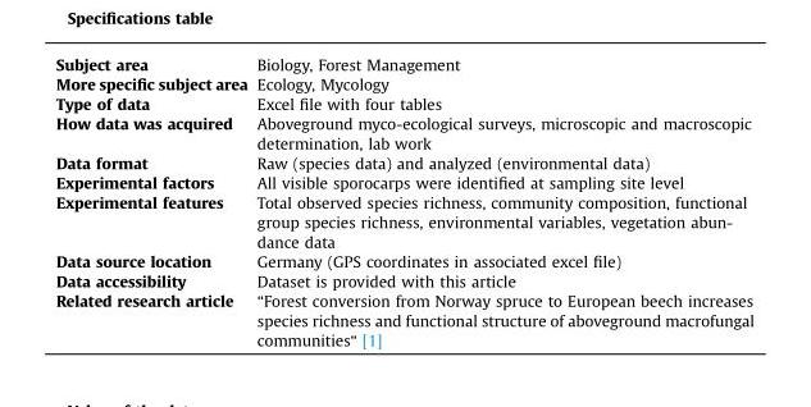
<table><tbody><tr><td>Subject area</td><td>Biology, Forest Management</td></tr><tr><td>More specific subject area</td><td>Ecology, Mycology</td></tr><tr><td>Type of data</td><td>Excel file with four tables</td></tr><tr><td>How data was acquired</td><td>Aboveground myco-ecological surveys, microscopic and macroscopic determination, lab work</td></tr><tr><td>Data format</td><td>Raw (species data) and analyzed (environmental data)</td></tr><tr><td>Experimental factors</td><td>All visible sporocarps were identified at sampling site level</td></tr><tr><td>Experimental features</td><td>Total observed species richness, community composition, functional group species richness, environmental variables, vegetation abun- dance data</td></tr><tr><td>Data source location</td><td>Germany (GPS coordinates in associated excel file)</td></tr><tr><td>Data accessibility</td><td>Dataset is provided with this article</td></tr><tr><td>Related research article</td><td>“Forest conversion from Norway spruce to European beech increases species richness and functional structure of aboveground macrofungal communities“ [1]</td></tr></tbody></table>